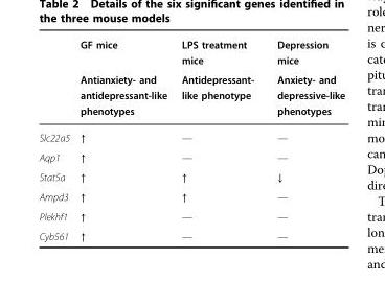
<table><thead><tr><td rowspan="2"></td><td rowspan="2">GF mice Antianxiety- and antidepressant-like phenotypes</td><td rowspan="2">LPS treatment mice Antidepressant- like phenotype</td><td rowspan="2">Depression mice Anxiety- and depressive-like phenotypes</td></tr><tr></tr></thead><tbody><tr><td>Slc22a5</td><td>↑</td><td>—</td><td>—</td></tr><tr><td>Aqp1</td><td>↑</td><td>—</td><td>—</td></tr><tr><td>Stat5a</td><td>↑</td><td>↑</td><td>↓</td></tr><tr><td>Ampd3</td><td>↑</td><td>↑</td><td>—</td></tr><tr><td>Plekhf1</td><td>↑</td><td>—</td><td>—</td></tr><tr><td>Cyb561</td><td>↑</td><td>—</td><td>—</td></tr></tbody></table>